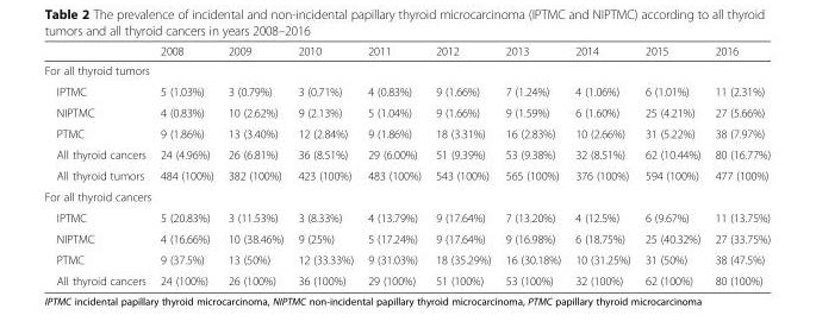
<table><thead><tr><td></td><td>2008</td><td>2009</td><td>2010</td><td>2011</td><td>2012</td><td>2013</td><td>2014</td><td>2015</td><td>2016</td></tr></thead><tbody><tr><td colspan="10">For all thyroid tumors</td></tr><tr><td>IPTMC</td><td>5 (1.03%)</td><td>3 (0.79%)</td><td>3 (0.71%)</td><td>4 (0.83%)</td><td>9 (1.66%)</td><td>7 (1.24%)</td><td>4 (1.06%)</td><td>6 (1.01%)</td><td>11 (2.31%)</td></tr><tr><td>NIPTMC</td><td>4 (0.83%)</td><td>10 (2.62%)</td><td>9 (2.13%)</td><td>5 (1.04%)</td><td>9 (1.66%)</td><td>9 (1.59%)</td><td>6 (1.60%)</td><td>25 (4.21%)</td><td>27 (5.66%)</td></tr><tr><td>PTMC</td><td>9 (1.86%)</td><td>13 (3.40%)</td><td>12 (2.84%)</td><td>9 (1.86%)</td><td>18 (3.31%)</td><td>16 (2.83%)</td><td>10 (2.66%)</td><td>31 (5.22%)</td><td>38 (7.97%)</td></tr><tr><td>All thyroid cancers</td><td>24 (4.96%)</td><td>26 (6.81%)</td><td>36 (8.51%)</td><td>29 (6.00%)</td><td>51 (9.39%)</td><td>53 (9.38%)</td><td>32 (8.51%)</td><td>62 (10.44%)</td><td>80 (16.77%)</td></tr><tr><td>All thyroid tumors</td><td>484 (100%)</td><td>382 (100%)</td><td>423 (100%)</td><td>483 (100%)</td><td>543 (100%)</td><td>565 (100%)</td><td>376 (100%)</td><td>594 (100%)</td><td>477 (100%)</td></tr><tr><td colspan="10">For all thyroid cancers</td></tr><tr><td>IPTMC</td><td>5 (20.83%)</td><td>3 (11.53%)</td><td>3 (8.33%)</td><td>4 (13.79%)</td><td>9 (17.64%)</td><td>7 (13.20%)</td><td>4 (12.5%)</td><td>6 (9.67%)</td><td>11 (13.75%)</td></tr><tr><td>NIPTMC</td><td>4 (16.66%)</td><td>10 (38.46%)</td><td>9 (25%)</td><td>5 (17.24%)</td><td>9 (17.64%)</td><td>9 (16.98%)</td><td>6 (18.75%)</td><td>25 (40.32%)</td><td>27 (33.75%)</td></tr><tr><td>PTMC</td><td>9 (37.5%)</td><td>13 (50%)</td><td>12 (33.33%)</td><td>9 (31.03%)</td><td>18 (35.29%)</td><td>16 (30.18%)</td><td>10 (31.25%)</td><td>31 (50%)</td><td>38 (47.5%)</td></tr><tr><td>All thyroid cancers</td><td>24 (100%)</td><td>26 (100%)</td><td>36 (100%)</td><td>29 (100%)</td><td>51 (100%)</td><td>53 (100%)</td><td>32 (100%)</td><td>62 (100%)</td><td>80 (100%)</td></tr></tbody></table>